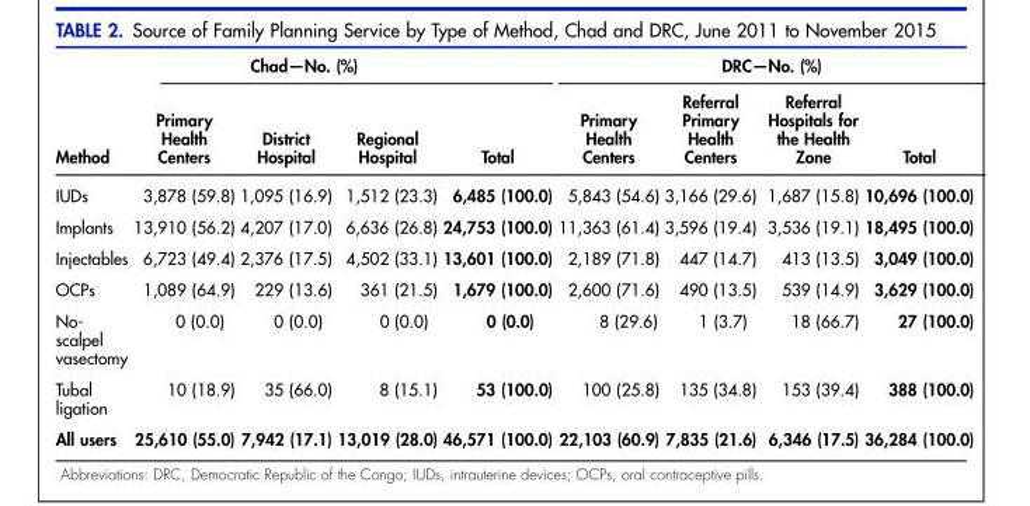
<table><thead><tr><td rowspan="2">Method</td><td colspan="4">Chad—No. (%)</td><td colspan="4">DRC—No. (%)</td></tr><tr><td>Primary Health Centers</td><td>District Hospital</td><td>Regional Hospital</td><td>Total</td><td>Primary Health Centers</td><td>Referral Primary Health Centers</td><td>Referral Hospitals for the Health Zone</td><td>Total</td></tr></thead><tbody><tr><td>IUDs</td><td>3,878 (59.8)</td><td>1,095 (16.9)</td><td>1,512 (23.3)</td><td>6,485 (100.0)</td><td>5,843 (54.6)</td><td>3,166 (29.6)</td><td>1,687 (15.8)</td><td>10,696 (100.0)</td></tr><tr><td>Implants</td><td>13,910 (56.2)</td><td>4,207 (17.0)</td><td>6,636 (26.8)</td><td>24,753 (100.0)</td><td>11,363 (61.4)</td><td>3,596 (19.4)</td><td>3,536 (19.1)</td><td>18,495 (100.0)</td></tr><tr><td>Injectables</td><td>6,723 (49.4)</td><td>2,376 (17.5)</td><td>4,502 (33.1)</td><td>13,601 (100.0)</td><td>2,189 (71.8)</td><td>447 (14.7)</td><td>413 (13.5)</td><td>3,049 (100.0)</td></tr><tr><td>OCPs</td><td>1,089 (64.9)</td><td>229 (13.6)</td><td>361 (21.5)</td><td>1,679 (100.0)</td><td>2,600 (71.6)</td><td>490 (13.5)</td><td>539 (14.9)</td><td>3,629 (100.0)</td></tr><tr><td>No- scalpel vasectomy</td><td>0 (0.0)</td><td>0 (0.0)</td><td>0 (0.0)</td><td>0 (0.0)</td><td>8 (29.6)</td><td>1 (3.7)</td><td>18 (66.7)</td><td>27 (100.0)</td></tr><tr><td>Tubal ligation</td><td>10 (18.9)</td><td>35 (66.0)</td><td>8 (15.1)</td><td>53 (100.0)</td><td>100 (25.8)</td><td>135 (34.8)</td><td>153 (39.4)</td><td>388 (100.0)</td></tr><tr><td>All users</td><td>25,610 (55.0)</td><td>7,942 (17.1)</td><td>13,019 (28.0)</td><td>46,571 (100.0)</td><td>22,103 (60.9)</td><td>7,835 (21.6)</td><td>6,346 (17.5)</td><td>36,284 (100.0)</td></tr></tbody></table>